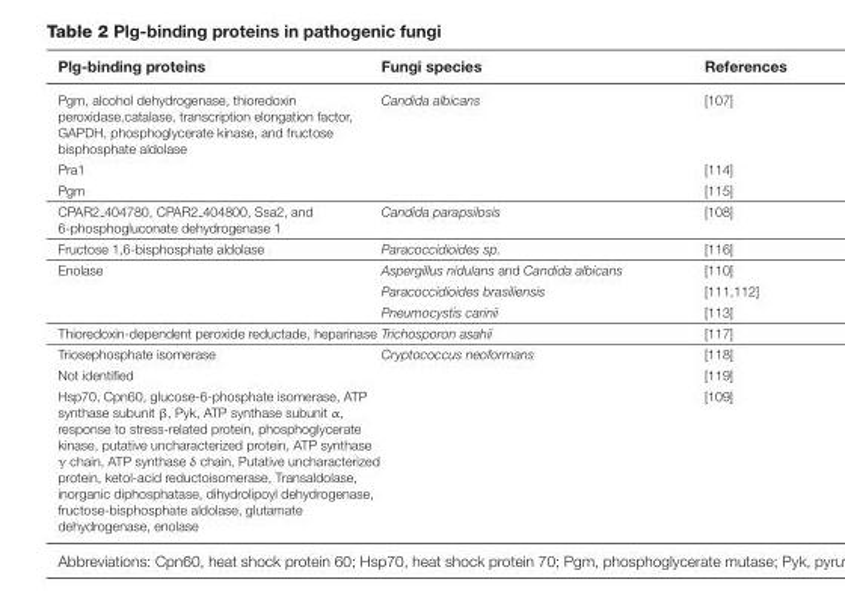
<table><thead><tr><td>Plg-binding proteins</td><td>Fungi species</td><td>References</td></tr></thead><tbody><tr><td>Pgm, alcohol dehydrogenase, thioredoxin peroxidase,catalase, transcription elongation factor, GAPDH, phosphoglycerate kinase, and fructose bisphosphate aldolase</td><td rowspan="3">Candida albicans</td><td>[107]</td></tr><tr><td>Pra1</td><td>[114]</td></tr><tr><td>Pgm</td><td>[115]</td></tr><tr><td>CPAR2 <sub>404780, CPAR2</sub> 404800, Ssa2, and 6-phosphogluconate dehydrogenase 1</td><td>Candida parapsilosis</td><td>[108]</td></tr><tr><td>Fructose 1,6-bisphosphate aldolase</td><td>Paracoccidioides sp.</td><td>[116]</td></tr><tr><td rowspan="3">Enolase</td><td>Aspergillus nidulans and Candida albicans</td><td>[110]</td></tr><tr><td>Paracoccidioides brasiliensis</td><td>[111,112]</td></tr><tr><td>Pneumocystis carinii</td><td>[113]</td></tr><tr><td>Thioredoxin-dependent peroxide reductade, heparinase</td><td>Trichosporon asahii</td><td>[117]</td></tr><tr><td>Triosephosphate isomerase</td><td rowspan="3">Cryptococcus neoformans</td><td>[118]</td></tr><tr><td>Not identified</td><td>[119]</td></tr><tr><td>Hsp70, Cpn60, glucose-6-phosphate isomerase, ATP synthase subunit β, Pyk, ATP synthase subunit α, response to stress-related protein, phosphoglycerate kinase, putative uncharacterized protein, ATP synthase γ chain, ATP synthase δ chain, Putative uncharacterized protein, ketol-acid reductoisomerase, Transaldolase, inorganic diphosphatase, dihydrolipoyl dehydrogenase, fructose-bisphosphate aldolase, glutamate dehydrogenase, enolase</td><td>[109]</td></tr></tbody></table>